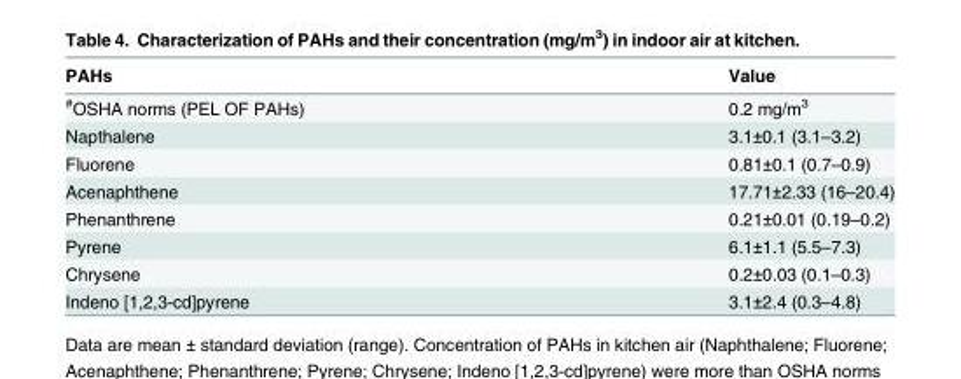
<table><thead><tr><td>PAHs</td><td>Value</td></tr></thead><tbody><tr><td><sup>#</sup>OSHA norms (PEL OF PAHs)</td><td>0.2 mg/m<sup>3</sup></td></tr><tr><td>Napthalene</td><td>3.1±0.1 (3.1–3.2)</td></tr><tr><td>Fluorene</td><td>0.81±0.1 (0.7–0.9)</td></tr><tr><td>Acenaphthene</td><td>17.71±2.33 (16–20.4)</td></tr><tr><td>Phenanthrene</td><td>0.21±0.01 (0.19–0.2)</td></tr><tr><td>Pyrene</td><td>6.1±1.1 (5.5–7.3)</td></tr><tr><td>Chrysene</td><td>0.2±0.03 (0.1–0.3)</td></tr><tr><td>Indeno [1,2,3-cd]pyrene</td><td>3.1±2.4 (0.3–4.8)</td></tr></tbody></table>